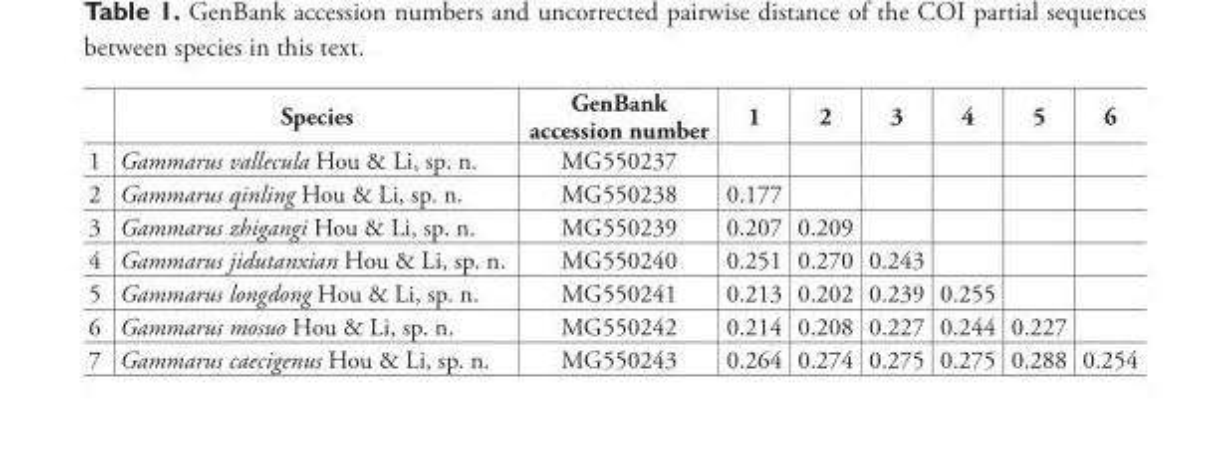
<table><thead><tr><td></td><td>Species</td><td>GenBank accession number</td><td>1</td><td>2</td><td>3</td><td>4</td><td>5</td><td>6</td></tr></thead><tbody><tr><td>1</td><td>Gammarus vallecula Hou &amp; Li, sp. n.</td><td>MG550237</td><td></td><td></td><td></td><td></td><td></td><td></td></tr><tr><td>2</td><td>Gammarus qinling Hou &amp; Li, sp. n.</td><td>MG550238</td><td>0.177</td><td></td><td></td><td></td><td></td><td></td></tr><tr><td>3</td><td>Gammarus zhigangi Hou &amp; Li, sp. n.</td><td>MG550239</td><td>0.207</td><td>0.209</td><td></td><td></td><td></td><td></td></tr><tr><td>4</td><td>Gammarus jidutanxian Hou &amp; Li, sp. n.</td><td>MG550240</td><td>0.251</td><td>0.270</td><td>0.243</td><td></td><td></td><td></td></tr><tr><td>5</td><td>Gammarus longdong Hou &amp; Li, sp. n.</td><td>MG550241</td><td>0.213</td><td>0.202</td><td>0.239</td><td>0.255</td><td></td><td></td></tr><tr><td>6</td><td>Gammarus mosuo Hou &amp; Li, sp. n.</td><td>MG550242</td><td>0.214</td><td>0.208</td><td>0.227</td><td>0.244</td><td>0.227</td><td></td></tr><tr><td>7</td><td>Gammarus caecigenus Hou &amp; Li, sp. n.</td><td>MG550243</td><td>0.264</td><td>0.274</td><td>0.275</td><td>0.275</td><td>0.288</td><td>0.254</td></tr></tbody></table>